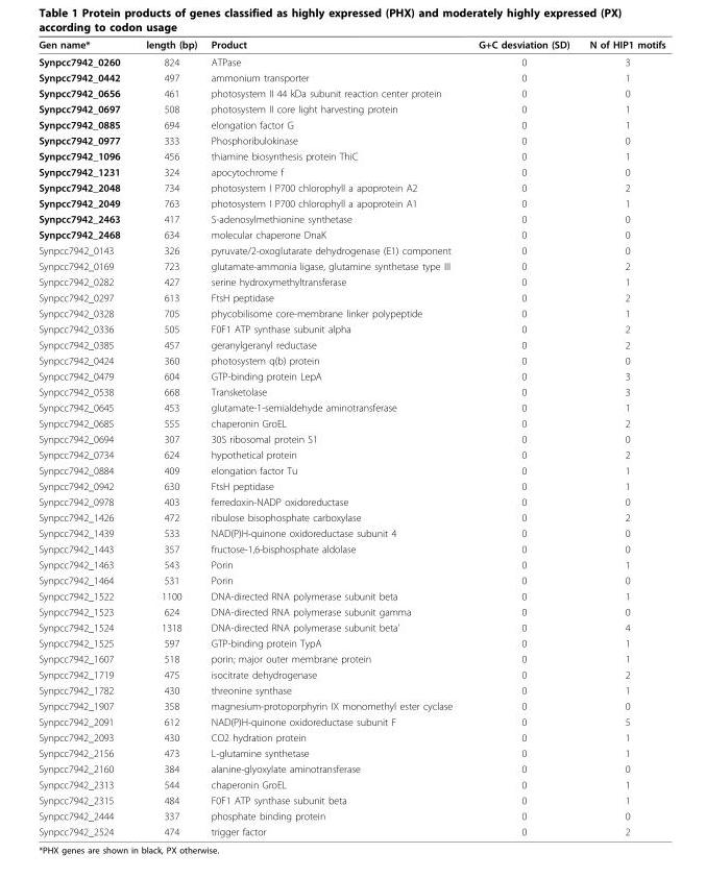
<table><thead><tr><td>Gen name*</td><td>length (bp)</td><td>Product</td><td>G+C desviation (SD)</td><td>N of HIP1 motifs</td></tr></thead><tbody><tr><td>Synpcc7942_0260</td><td>824</td><td>ATPase</td><td>0</td><td>3</td></tr><tr><td>Synpcc7942_0442</td><td>497</td><td>ammonium transporter</td><td>0</td><td>1</td></tr><tr><td>Synpcc7942_0656</td><td>461</td><td>photosystem II 44 kDa subunit reaction center protein</td><td>0</td><td>0</td></tr><tr><td>Synpcc7942_0697</td><td>508</td><td>photosystem II core light harvesting protein</td><td>0</td><td>1</td></tr><tr><td>Synpcc7942_0885</td><td>694</td><td>elongation factor G</td><td>0</td><td>1</td></tr><tr><td>Synpcc7942_0977</td><td>333</td><td>Phosphoribulokinase</td><td>0</td><td>0</td></tr><tr><td>Synpcc7942_1096</td><td>456</td><td>thiamine biosynthesis protein ThiC</td><td>0</td><td>1</td></tr><tr><td>Synpcc7942_1231</td><td>324</td><td>apocytochrome f</td><td>0</td><td>0</td></tr><tr><td>Synpcc7942_2048</td><td>734</td><td>photosystem I P700 chlorophyll a apoprotein A2</td><td>0</td><td>2</td></tr><tr><td>Synpcc7942_2049</td><td>763</td><td>photosystem I P700 chlorophyll a apoprotein A1</td><td>0</td><td>1</td></tr><tr><td>Synpcc7942_2463</td><td>417</td><td>S-adenosylmethionine synthetase</td><td>0</td><td>0</td></tr><tr><td>Synpcc7942_2468</td><td>634</td><td>molecular chaperone DnaK</td><td>0</td><td>0</td></tr><tr><td>Synpcc7942_0143</td><td>326</td><td>pyruvate/2-oxoglutarate dehydrogenase (E1) component</td><td>0</td><td>0</td></tr><tr><td>Synpcc7942_0169</td><td>723</td><td>glutamate-ammonia ligase, glutamine synthetase type III</td><td>0</td><td>2</td></tr><tr><td>Synpcc7942_0282</td><td>427</td><td>serine hydroxymethyltransferase</td><td>0</td><td>1</td></tr><tr><td>Synpcc7942_0297</td><td>613</td><td>FtsH peptidase</td><td>0</td><td>2</td></tr><tr><td>Synpcc7942_0328</td><td>705</td><td>phycobilisome core-membrane linker polypeptide</td><td>0</td><td>1</td></tr><tr><td>Synpcc7942_0336</td><td>505</td><td>F0F1 ATP synthase subunit alpha</td><td>0</td><td>2</td></tr><tr><td>Synpcc7942_0385</td><td>457</td><td>geranylgeranyl reductase</td><td>0</td><td>2</td></tr><tr><td>Synpcc7942_0424</td><td>360</td><td>photosystem q(b) protein</td><td>0</td><td>0</td></tr><tr><td>Synpcc7942_0479</td><td>604</td><td>GTP-binding protein LepA</td><td>0</td><td>3</td></tr><tr><td>Synpcc7942_0538</td><td>668</td><td>Transketolase</td><td>0</td><td>3</td></tr><tr><td>Synpcc7942_0645</td><td>453</td><td>glutamate-1-semialdehyde aminotransferase</td><td>0</td><td>1</td></tr><tr><td>Synpcc7942_0685</td><td>555</td><td>chaperonin GroEL</td><td>0</td><td>2</td></tr><tr><td>Synpcc7942_0694</td><td>307</td><td>30S ribosomal protein S1</td><td>0</td><td>0</td></tr><tr><td>Synpcc7942_0734</td><td>624</td><td>hypothetical protein</td><td>0</td><td>2</td></tr><tr><td>Synpcc7942_0884</td><td>409</td><td>elongation factor Tu</td><td>0</td><td>1</td></tr><tr><td>Synpcc7942_0942</td><td>630</td><td>FtsH peptidase</td><td>0</td><td>1</td></tr><tr><td>Synpcc7942_0978</td><td>403</td><td>ferredoxin-NADP oxidoreductase</td><td>0</td><td>0</td></tr><tr><td>Synpcc7942_1426</td><td>472</td><td>ribulose bisophosphate carboxylase</td><td>0</td><td>2</td></tr><tr><td>Synpcc7942_1439</td><td>533</td><td>NAD(P)H-quinone oxidoreductase subunit 4</td><td>0</td><td>0</td></tr><tr><td>Synpcc7942_1443</td><td>357</td><td>fructose-1,6-bisphosphate aldolase</td><td>0</td><td>0</td></tr><tr><td>Synpcc7942_1463</td><td>543</td><td>Porin</td><td>0</td><td>1</td></tr><tr><td>Synpcc7942_1464</td><td>531</td><td>Porin</td><td>0</td><td>0</td></tr><tr><td>Synpcc7942_1522</td><td>1100</td><td>DNA-directed RNA polymerase subunit beta</td><td>0</td><td>1</td></tr><tr><td>Synpcc7942_1523</td><td>624</td><td>DNA-directed RNA polymerase subunit gamma</td><td>0</td><td>0</td></tr><tr><td>Synpcc7942_1524</td><td>1318</td><td>DNA-directed RNA polymerase subunit beta’</td><td>0</td><td>4</td></tr><tr><td>Synpcc7942_1525</td><td>597</td><td>GTP-binding protein TypA</td><td>0</td><td>1</td></tr><tr><td>Synpcc7942_1607</td><td>518</td><td>porin; major outer membrane protein</td><td>0</td><td>1</td></tr><tr><td>Synpcc7942_1719</td><td>475</td><td>isocitrate dehydrogenase</td><td>0</td><td>2</td></tr><tr><td>Synpcc7942_1782</td><td>430</td><td>threonine synthase</td><td>0</td><td>1</td></tr><tr><td>Synpcc7942_1907</td><td>358</td><td>magnesium-protoporphyrin IX monomethyl ester cyclase</td><td>0</td><td>0</td></tr><tr><td>Synpcc7942_2091</td><td>612</td><td>NAD(P)H-quinone oxidoreductase subunit F</td><td>0</td><td>5</td></tr><tr><td>Synpcc7942_2093</td><td>430</td><td>CO2 hydration protein</td><td>0</td><td>1</td></tr><tr><td>Synpcc7942_2156</td><td>473</td><td>L-glutamine synthetase</td><td>0</td><td>1</td></tr><tr><td>Synpcc7942_2160</td><td>384</td><td>alanine-glyoxylate aminotransferase</td><td>0</td><td>0</td></tr><tr><td>Synpcc7942_2313</td><td>544</td><td>chaperonin GroEL</td><td>0</td><td>1</td></tr><tr><td>Synpcc7942_2315</td><td>484</td><td>F0F1 ATP synthase subunit beta</td><td>0</td><td>1</td></tr><tr><td>Synpcc7942_2444</td><td>337</td><td>phosphate binding protein</td><td>0</td><td>0</td></tr><tr><td>Synpcc7942_2524</td><td>474</td><td>trigger factor</td><td>0</td><td>2</td></tr></tbody></table>